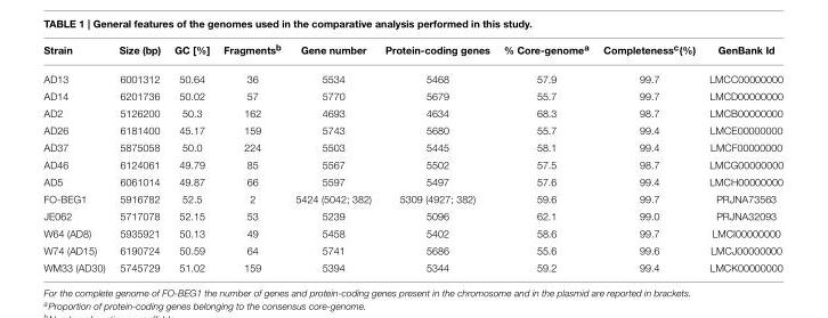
<table><thead><tr><td>Strain</td><td>Size (bp)</td><td>GC [%]</td><td>Fragments<sup>b</sup></td><td>Gene number</td><td>Protein-coding genes</td><td>% Core-genome<sup>a</sup></td><td>Completeness<sup>c</sup>(%)</td><td>GenBank Id</td></tr></thead><tbody><tr><td>AD13</td><td>6001312</td><td>50.64</td><td>36</td><td>5534</td><td>5468</td><td>57.9</td><td>99.7</td><td>LMCC00000000</td></tr><tr><td>AD14</td><td>6201736</td><td>50.02</td><td>57</td><td>5770</td><td>5679</td><td>55.7</td><td>99.7</td><td>LMCD00000000</td></tr><tr><td>AD2</td><td>5126200</td><td>50.3</td><td>162</td><td>4693</td><td>4634</td><td>68.3</td><td>98.7</td><td>LMCB00000000</td></tr><tr><td>AD26</td><td>6181400</td><td>45.17</td><td>159</td><td>5743</td><td>5680</td><td>55.7</td><td>99.4</td><td>LMCE00000000</td></tr><tr><td>AD37</td><td>5875058</td><td>50.0</td><td>224</td><td>5503</td><td>5445</td><td>58.1</td><td>99.4</td><td>LMCF00000000</td></tr><tr><td>AD46</td><td>6124061</td><td>49.79</td><td>85</td><td>5567</td><td>5502</td><td>57.5</td><td>98.7</td><td>LMCG00000000</td></tr><tr><td>AD5</td><td>6061014</td><td>49.87</td><td>66</td><td>5597</td><td>5497</td><td>57.6</td><td>99.4</td><td>LMCH00000000</td></tr><tr><td>FO-BEG1</td><td>5916782</td><td>52.5</td><td>2</td><td>5424 (5042; 382)</td><td>5309 (4927; 382)</td><td>59.6</td><td>99.7</td><td>PRJNA73563</td></tr><tr><td>JE062</td><td>5717078</td><td>52.15</td><td>53</td><td>5239</td><td>5096</td><td>62.1</td><td>99.0</td><td>PRJNA32093</td></tr><tr><td>W64 (AD8)</td><td>5935921</td><td>50.13</td><td>49</td><td>5458</td><td>5402</td><td>58.6</td><td>99.7</td><td>LMCI00000000</td></tr><tr><td>W74 (AD15)</td><td>6190724</td><td>50.59</td><td>64</td><td>5741</td><td>5686</td><td>55.6</td><td>99.6</td><td>LMCJ00000000</td></tr><tr><td>WM33 (AD30)</td><td>5745729</td><td>51.02</td><td>159</td><td>5394</td><td>5344</td><td>59.2</td><td>99.4</td><td>LMCK00000000</td></tr></tbody></table>